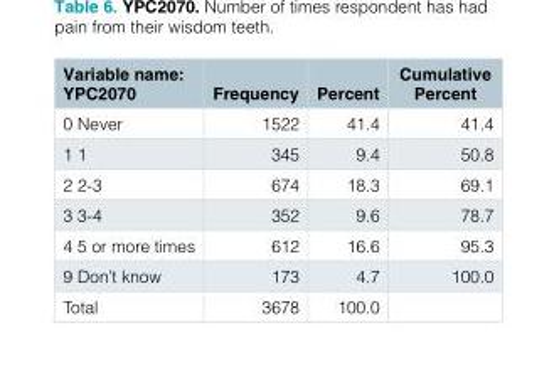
<table><thead><tr><td>Variable name: YPC2070</td><td>Frequency</td><td>Percent</td><td>Cumulative Percent</td></tr></thead><tbody><tr><td>0 Never</td><td>1522</td><td>41.4</td><td>41.4</td></tr><tr><td>1 1</td><td>345</td><td>9.4</td><td>50.8</td></tr><tr><td>2 2-3</td><td>674</td><td>18.3</td><td>69.1</td></tr><tr><td>3 3-4</td><td>352</td><td>9.6</td><td>78.7</td></tr><tr><td>4 5 or more times</td><td>612</td><td>16.6</td><td>95.3</td></tr><tr><td>9 Don’t know</td><td>173</td><td>4.7</td><td>100.0</td></tr><tr><td>Total</td><td>3678</td><td>100.0</td><td></td></tr></tbody></table>